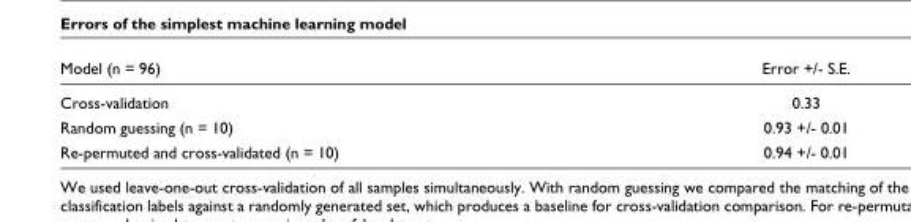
<table><thead><tr><td>Model (n = 96)</td><td>Error +/- S.E.</td></tr></thead><tbody><tr><td>Cross-validation</td><td>0.33</td></tr><tr><td>Random guessing (n = 10)</td><td>0.93 +/- 0.01</td></tr><tr><td>Re-permuted and cross-validated (n = 10)</td><td>0.94 +/- 0.01</td></tr></tbody></table>